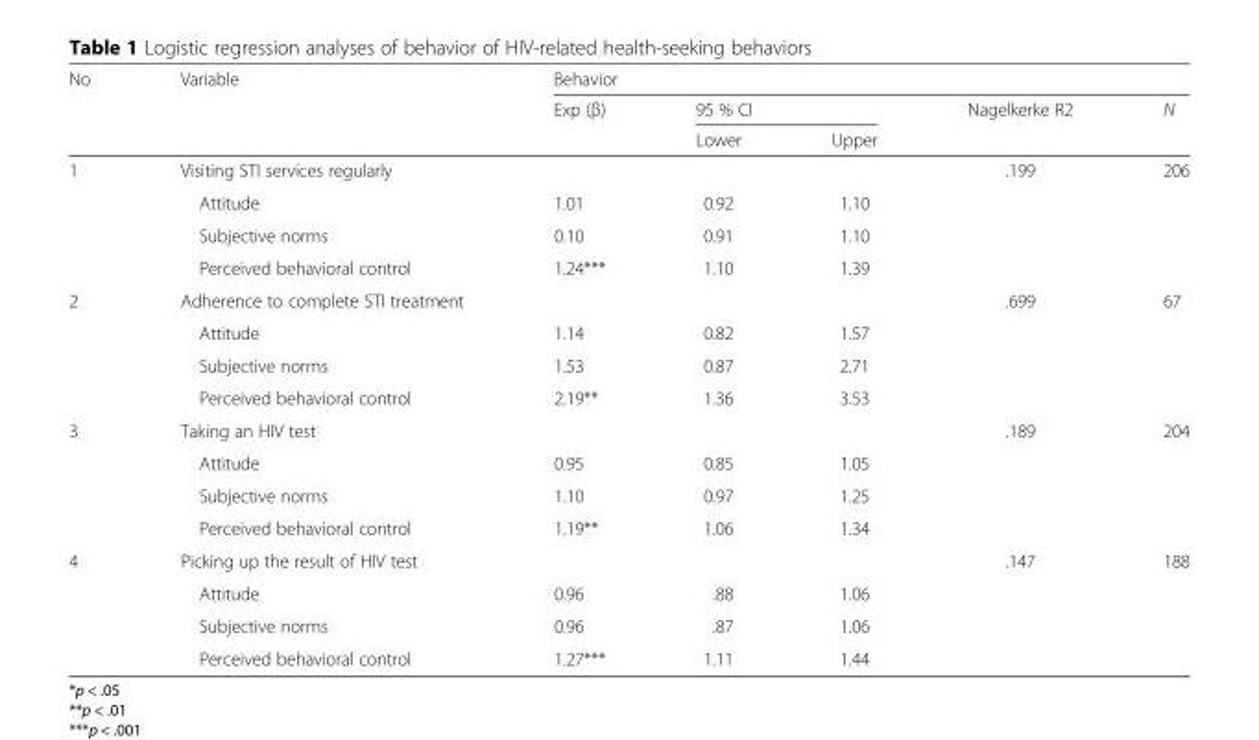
<table><thead><tr><td rowspan="3">No</td><td rowspan="3">Variable</td><td colspan="5">Behavior</td></tr><tr><td rowspan="2">Exp (β)</td><td colspan="2">95 % CI</td><td rowspan="2">Nagelkerke R2</td><td rowspan="2">N</td></tr><tr><td>Lower</td><td>Upper</td></tr></thead><tbody><tr><td rowspan="4">1</td><td>Visiting STI services regularly</td><td></td><td></td><td></td><td>.199</td><td>206</td></tr><tr><td>Attitude</td><td>1.01</td><td>0.92</td><td>1.10</td><td></td><td></td></tr><tr><td>Subjective norms</td><td>0.10</td><td>0.91</td><td>1.10</td><td></td><td></td></tr><tr><td>Perceived behavioral control</td><td>1.24***</td><td>1.10</td><td>1.39</td><td></td><td></td></tr><tr><td rowspan="4">2</td><td>Adherence to complete STI treatment</td><td></td><td></td><td></td><td>.699</td><td>67</td></tr><tr><td>Attitude</td><td>1.14</td><td>0.82</td><td>1.57</td><td></td><td></td></tr><tr><td>Subjective norms</td><td>1.53</td><td>0.87</td><td>2.71</td><td></td><td></td></tr><tr><td>Perceived behavioral control</td><td>2.19**</td><td>1.36</td><td>3.53</td><td></td><td></td></tr><tr><td rowspan="4">3</td><td>Taking an HIV test</td><td></td><td></td><td></td><td>.189</td><td>204</td></tr><tr><td>Attitude</td><td>0.95</td><td>0.85</td><td>1.05</td><td></td><td></td></tr><tr><td>Subjective norms</td><td>1.10</td><td>0.97</td><td>1.25</td><td></td><td></td></tr><tr><td>Perceived behavioral control</td><td>1.19**</td><td>1.06</td><td>1.34</td><td></td><td></td></tr><tr><td rowspan="4">4</td><td>Picking up the result of HIV test</td><td></td><td></td><td></td><td>.147</td><td>188</td></tr><tr><td>Attitude</td><td>0.96</td><td>.88</td><td>1.06</td><td></td><td></td></tr><tr><td>Subjective norms</td><td>0.96</td><td>.87</td><td>1.06</td><td></td><td></td></tr><tr><td>Perceived behavioral control</td><td>1.27***</td><td>1.11</td><td>1.44</td><td></td><td></td></tr></tbody></table>